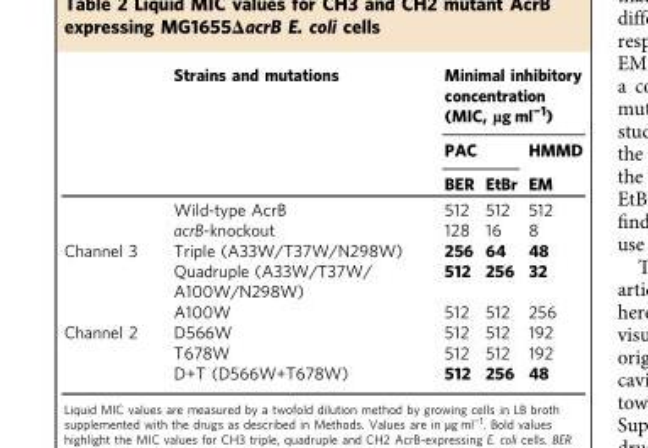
<table><thead><tr><td rowspan="3"></td><td rowspan="3">Strains and mutations</td><td colspan="3">Minimal inhibitory concentration (MIC, µg ml<sup>−1</sup>)</td></tr><tr><td colspan="2">PAC</td><td rowspan="2">HMMD EM</td></tr><tr><td>BER</td><td>EtBr</td></tr></thead><tbody><tr><td rowspan="2"></td><td>Wild-type AcrB</td><td>512</td><td>512</td><td>512</td></tr><tr><td>acrB-knockout</td><td>128</td><td>16</td><td>8</td></tr><tr><td rowspan="3">Channel 3</td><td>Triple (A33W/T37W/N298W)</td><td>256</td><td>64</td><td>48</td></tr><tr><td>Quadruple (A33W/T37W/ A100W/N298W)</td><td>512</td><td>256</td><td>32</td></tr><tr><td>A100W</td><td>512</td><td>512</td><td>256</td></tr><tr><td rowspan="3">Channel 2</td><td>D566W</td><td>512</td><td>512</td><td>192</td></tr><tr><td>T678W</td><td>512</td><td>512</td><td>192</td></tr><tr><td>D+T (D566W+T678W)</td><td>512</td><td>256</td><td>48</td></tr></tbody></table>